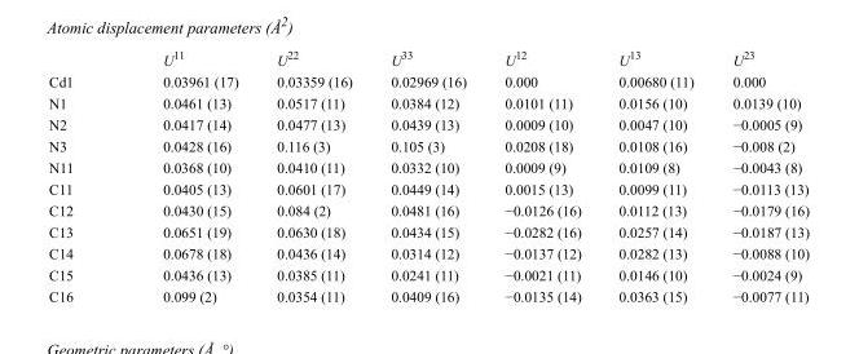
<table><thead><tr><td></td><td>U<sup>11</sup></td><td>U<sup>22</sup></td><td>U<sup>33</sup></td><td>U<sup>12</sup></td><td>U<sup>13</sup></td><td>U<sup>23</sup></td></tr></thead><tbody><tr><td>Cd1</td><td>0.03961 (17)</td><td>0.03359 (16)</td><td>0.02969 (16)</td><td>0.000</td><td>0.00680 (11)</td><td>0.000</td></tr><tr><td>N1</td><td>0.0461 (13)</td><td>0.0517 (11)</td><td>0.0384 (12)</td><td>0.0101 (11)</td><td>0.0156 (10)</td><td>0.0139 (10)</td></tr><tr><td>N2</td><td>0.0417 (14)</td><td>0.0477 (13)</td><td>0.0439 (13)</td><td>0.0009 (10)</td><td>0.0047 (10)</td><td>−0.0005 (9)</td></tr><tr><td>N3</td><td>0.0428 (16)</td><td>0.116 (3)</td><td>0.105 (3)</td><td>0.0208 (18)</td><td>0.0108 (16)</td><td>−0.008 (2)</td></tr><tr><td>N11</td><td>0.0368 (10)</td><td>0.0410 (11)</td><td>0.0332 (10)</td><td>0.0009 (9)</td><td>0.0109 (8)</td><td>−0.0043 (8)</td></tr><tr><td>C11</td><td>0.0405 (13)</td><td>0.0601 (17)</td><td>0.0449 (14)</td><td>0.0015 (13)</td><td>0.0099 (11)</td><td>−0.0113 (13)</td></tr><tr><td>C12</td><td>0.0430 (15)</td><td>0.084 (2)</td><td>0.0481 (16)</td><td>−0.0126 (16)</td><td>0.0112 (13)</td><td>−0.0179 (16)</td></tr><tr><td>C13</td><td>0.0651 (19)</td><td>0.0630 (18)</td><td>0.0434 (15)</td><td>−0.0282 (16)</td><td>0.0257 (14)</td><td>−0.0187 (13)</td></tr><tr><td>C14</td><td>0.0678 (18)</td><td>0.0436 (14)</td><td>0.0314 (12)</td><td>−0.0137 (12)</td><td>0.0282 (13)</td><td>−0.0088 (10)</td></tr><tr><td>C15</td><td>0.0436 (13)</td><td>0.0385 (11)</td><td>0.0241 (11)</td><td>−0.0021 (11)</td><td>0.0146 (10)</td><td>−0.0024 (9)</td></tr><tr><td>C16</td><td>0.099 (2)</td><td>0.0354 (11)</td><td>0.0409 (16)</td><td>−0.0135 (14)</td><td>0.0363 (15)</td><td>−0.0077 (11)</td></tr></tbody></table>